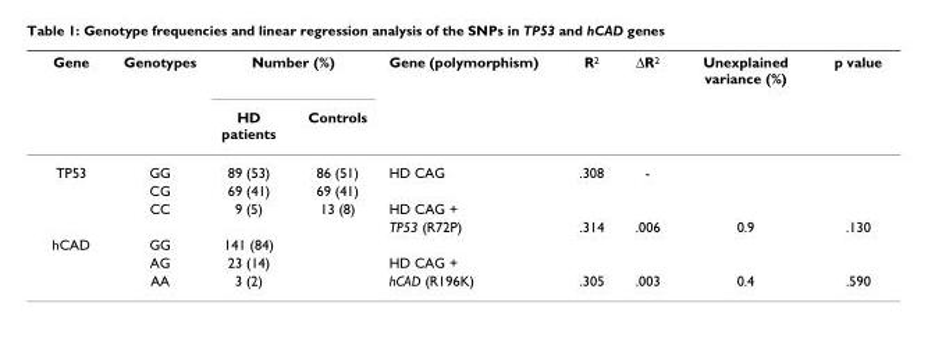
<table><thead><tr><td rowspan="2">Gene</td><td rowspan="2">Genotypes</td><td colspan="2">Number (%)</td><td rowspan="2">Gene (polymorphism)</td><td rowspan="2">R2</td><td rowspan="2">∆R2</td><td rowspan="2">Unexplained variance (%)</td><td rowspan="2">p value</td></tr><tr><td>HD patients</td><td>Controls</td></tr></thead><tbody><tr><td rowspan="4">TP53</td><td>GG</td><td>89 (53)</td><td>86 (51)</td><td>HD CAG</td><td>.308</td><td>-</td><td></td><td></td></tr><tr><td>CG</td><td>69 (41)</td><td>69 (41)</td><td></td><td></td><td></td><td></td><td></td></tr><tr><td>CC</td><td>9 (5)</td><td>13 (8)</td><td>HD CAG +</td><td></td><td></td><td></td><td></td></tr><tr><td></td><td></td><td></td><td>TP53 (R72P)</td><td>.314</td><td>.006</td><td>0.9</td><td>.130</td></tr><tr><td rowspan="3">hCAD</td><td>GG</td><td>141 (84)</td><td></td><td></td><td></td><td></td><td></td><td></td></tr><tr><td>AG</td><td>23 (14)</td><td></td><td>HD CAG +</td><td></td><td></td><td></td><td></td></tr><tr><td>AA</td><td>3 (2)</td><td></td><td>hCAD (R196K)</td><td>.305</td><td>.003</td><td>0.4</td><td>.590</td></tr></tbody></table>